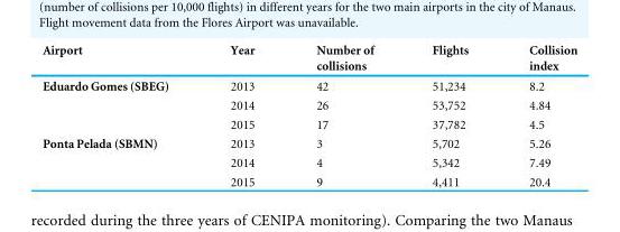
<table><thead><tr><td>Airport</td><td>Year</td><td>Number of collisions</td><td>Flights</td><td>Collision index</td></tr></thead><tbody><tr><td rowspan="3">Eduardo Gomes (SBEG)</td><td>2013</td><td>42</td><td>51,234</td><td>8.2</td></tr><tr><td>2014</td><td>26</td><td>53,752</td><td>4.84</td></tr><tr><td>2015</td><td>17</td><td>37,782</td><td>4.5</td></tr><tr><td rowspan="3">Ponta Pelada (SBMN)</td><td>2013</td><td>3</td><td>5,702</td><td>5.26</td></tr><tr><td>2014</td><td>4</td><td>5,342</td><td>7.49</td></tr><tr><td>2015</td><td>9</td><td>4,411</td><td>20.4</td></tr></tbody></table>